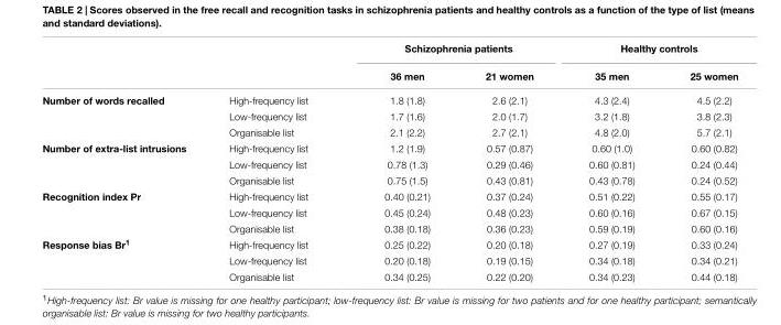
<table><thead><tr><td rowspan="2"></td><td rowspan="2"></td><td colspan="2">Schizophrenia patients</td><td colspan="2">Healthy controls</td></tr><tr><td>36 men</td><td>21 women</td><td>35 men</td><td>25 women</td></tr></thead><tbody><tr><td rowspan="3">Number of words recalled</td><td>High-frequency list</td><td>1.8 (1.8)</td><td>2.6 (2.1)</td><td>4.3 (2.4)</td><td>4.5 (2.2)</td></tr><tr><td>Low-frequency list</td><td>1.7 (1.6)</td><td>2.0 (1.7)</td><td>3.2 (1.8)</td><td>3.8 (2.3)</td></tr><tr><td>Organisable list</td><td>2.1 (2.2)</td><td>2.7 (2.1)</td><td>4.8 (2.0)</td><td>5.7 (2.1)</td></tr><tr><td rowspan="3">Number of extra-list intrusions</td><td>High-frequency list</td><td>1.2 (1.9)</td><td>0.57 (0.87)</td><td>0.60 (1.0)</td><td>0.60 (0.82)</td></tr><tr><td>Low-frequency list</td><td>0.78 (1.3)</td><td>0.29 (0.46)</td><td>0.60 (0.81)</td><td>0.24 (0.44)</td></tr><tr><td>Organisable list</td><td>0.75 (1.5)</td><td>0.43 (0.81)</td><td>0.43 (0.78)</td><td>0.24 (0.52)</td></tr><tr><td rowspan="3">Recognition index Pr</td><td>High-frequency list</td><td>0.40 (0.21)</td><td>0.37 (0.24)</td><td>0.51 (0.22)</td><td>0.55 (0.17)</td></tr><tr><td>Low-frequency list</td><td>0.45 (0.24)</td><td>0.48 (0.23)</td><td>0.60 (0.16)</td><td>0.67 (0.15)</td></tr><tr><td>Organisable list</td><td>0.38 (0.18)</td><td>0.36 (0.23)</td><td>0.59 (0.19)</td><td>0.60 (0.16)</td></tr><tr><td rowspan="3">Response bias Br<sup>1</sup></td><td>High-frequency list</td><td>0.25 (0.22)</td><td>0.20 (0.18)</td><td>0.27 (0.19)</td><td>0.33 (0.24)</td></tr><tr><td>Low-frequency list</td><td>0.20 (0.18)</td><td>0.19 (0.15)</td><td>0.34 (0.18)</td><td>0.34 (0.21)</td></tr><tr><td>Organisable list</td><td>0.34 (0.25)</td><td>0.22 (0.20)</td><td>0.34 (0.23)</td><td>0.44 (0.18)</td></tr></tbody></table>